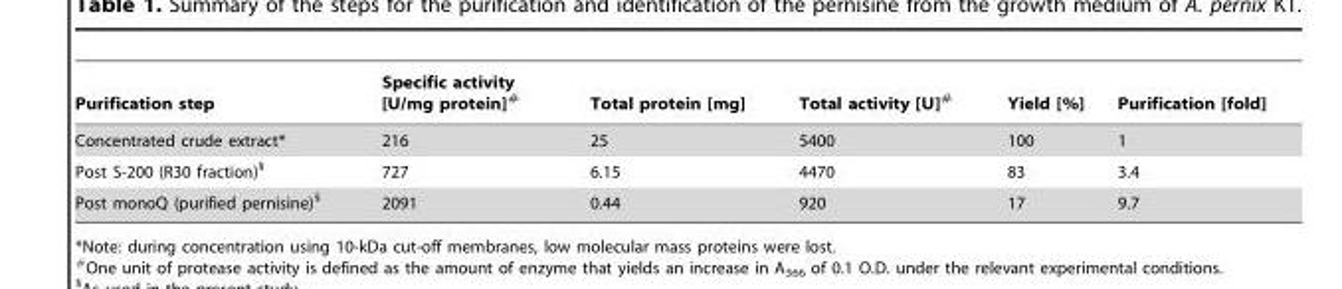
<table><thead><tr><td>Purification step</td><td>Specific activity [U/mg protein]#</td><td>Total protein [mg]</td><td>Total activity [U]#</td><td>Yield [%]</td><td>Purification [fold]</td></tr></thead><tbody><tr><td>Concentrated crude extract*</td><td>216</td><td>25</td><td>5400</td><td>100</td><td>1</td></tr><tr><td>Post S-200 (R30 fraction)§</td><td>727</td><td>6.15</td><td>4470</td><td>83</td><td>3.4</td></tr><tr><td>Post monoQ (purified pernisine)§</td><td>2091</td><td>0.44</td><td>920</td><td>17</td><td>9.7</td></tr></tbody></table>